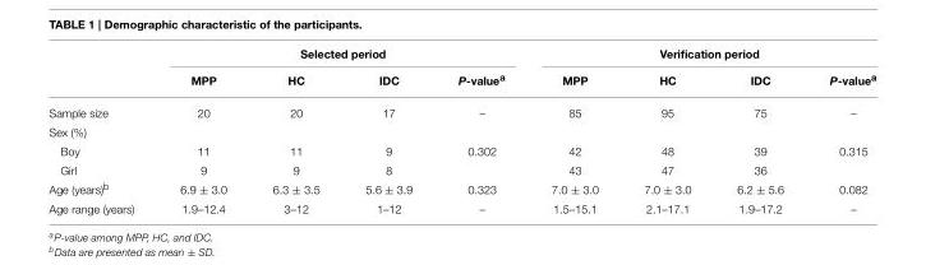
<table><thead><tr><td rowspan="2"></td><td colspan="4">Selected period</td><td colspan="4">Verification period</td></tr><tr><td>MPP</td><td>HC</td><td>IDC</td><td>P-value<sup>a</sup></td><td>MPP</td><td>HC</td><td>IDC</td><td>P-value<sup>a</sup></td></tr></thead><tbody><tr><td>Sample size</td><td>20</td><td>20</td><td>17</td><td>–</td><td>85</td><td>95</td><td>75</td><td>–</td></tr><tr><td colspan="9">Sex (%)</td></tr><tr><td>Boy</td><td>11</td><td>11</td><td>9</td><td>0.302</td><td>42</td><td>48</td><td>39</td><td>0.315</td></tr><tr><td>Girl</td><td>9</td><td>9</td><td>8</td><td></td><td>43</td><td>47</td><td>36</td><td></td></tr><tr><td>Age (years)<sup>b</sup></td><td>6.9 ± 3.0</td><td>6.3 ± 3.5</td><td>5.6 ± 3.9</td><td>0.323</td><td>7.0 ± 3.0</td><td>7.0 ± 3.0</td><td>6.2 ± 5.6</td><td>0.082</td></tr><tr><td>Age range (years)</td><td>1.9–12.4</td><td>3–12</td><td>1–12</td><td>–</td><td>1.5–15.1</td><td>2.1–17.1</td><td>1.9–17.2</td><td>–</td></tr></tbody></table>